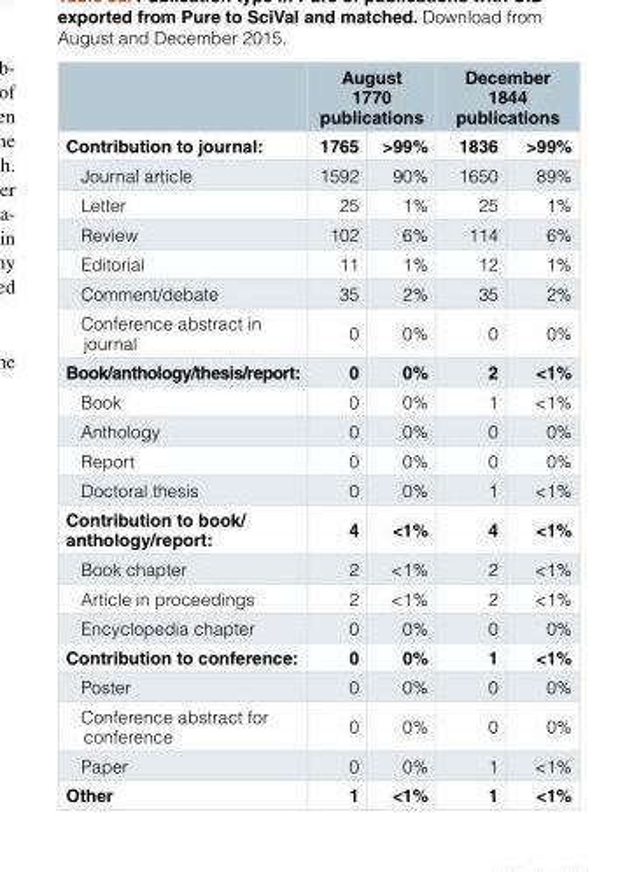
<table><thead><tr><td rowspan="2">Contribution to journal:</td><td colspan="2">August 1770 publications</td><td colspan="2">December 1844 publications</td></tr><tr><td>1765</td><td>&gt;99%</td><td>1836</td><td>&gt;99%</td></tr></thead><tbody><tr><td>Journal article</td><td>1592</td><td>90%</td><td>1650</td><td>89%</td></tr><tr><td>Letter</td><td>25</td><td>1%</td><td>25</td><td>1%</td></tr><tr><td>Review</td><td>102</td><td>6%</td><td>114</td><td>6%</td></tr><tr><td>Editorial</td><td>11</td><td>1%</td><td>12</td><td>1%</td></tr><tr><td>Comment/debate</td><td>35</td><td>2%</td><td>35</td><td>2%</td></tr><tr><td>Conference abstract in journal</td><td>0</td><td>0%</td><td>0</td><td>0%</td></tr><tr><td>Book/anthology/thesis/report:</td><td>0</td><td>0%</td><td>2</td><td>&lt;1%</td></tr><tr><td>Book</td><td>0</td><td>0%</td><td>1</td><td>&lt;1%</td></tr><tr><td>Anthology</td><td>0</td><td>0%</td><td>0</td><td>0%</td></tr><tr><td>Report</td><td>0</td><td>0%</td><td>0</td><td>0%</td></tr><tr><td>Doctoral thesis</td><td>0</td><td>0%</td><td>1</td><td>&lt;1%</td></tr><tr><td>Contribution to book/ anthology/report:</td><td>4</td><td>&lt;1%</td><td>4</td><td>&lt;1%</td></tr><tr><td>Book chapter</td><td>2</td><td>&lt;1%</td><td>2</td><td>&lt;1%</td></tr><tr><td>Article in proceedings</td><td>2</td><td>&lt;1%</td><td>2</td><td>&lt;1%</td></tr><tr><td>Encyclopedia chapter</td><td>0</td><td>0%</td><td>0</td><td>0%</td></tr><tr><td>Contribution to conference:</td><td>0</td><td>0%</td><td>1</td><td>&lt;1%</td></tr><tr><td>Poster</td><td>0</td><td>0%</td><td>0</td><td>0%</td></tr><tr><td>Conference abstract for conference</td><td>0</td><td>0%</td><td>0</td><td>0%</td></tr><tr><td>Paper</td><td>0</td><td>0%</td><td>1</td><td>&lt;1%</td></tr><tr><td>Other</td><td>1</td><td>&lt;1%</td><td>1</td><td>&lt;1%</td></tr></tbody></table>